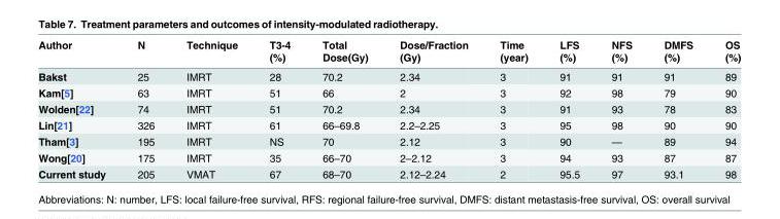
<table><thead><tr><td rowspan="2">Author</td><td rowspan="2">N</td><td rowspan="2">Technique</td><td rowspan="2">T3-4 (%)</td><td rowspan="2">Total Dose(Gy)</td><td rowspan="2">Dose/Fraction (Gy)</td><td rowspan="2">Time (year)</td><td rowspan="2">LFS (%)</td><td rowspan="2">NFS (%)</td><td rowspan="2">DMFS (%)</td><td rowspan="2">OS (%)</td></tr><tr></tr></thead><tbody><tr><td>Bakst</td><td>25</td><td>IMRT</td><td>28</td><td>70.2</td><td>2.34</td><td>3</td><td>91</td><td>91</td><td>91</td><td>89</td></tr><tr><td>Kam[5]</td><td>63</td><td>IMRT</td><td>51</td><td>66</td><td>2</td><td>3</td><td>92</td><td>98</td><td>79</td><td>90</td></tr><tr><td>Wolden[22]</td><td>74</td><td>IMRT</td><td>51</td><td>70.2</td><td>2.34</td><td>3</td><td>91</td><td>93</td><td>78</td><td>83</td></tr><tr><td>Lin[21]</td><td>326</td><td>IMRT</td><td>61</td><td>66–69.8</td><td>2.2–2.25</td><td>3</td><td>95</td><td>98</td><td>90</td><td>90</td></tr><tr><td>Tham[3]</td><td>195</td><td>IMRT</td><td>NS</td><td>70</td><td>2.12</td><td>3</td><td>90</td><td>—</td><td>89</td><td>94</td></tr><tr><td>Wong[20]</td><td>175</td><td>IMRT</td><td>35</td><td>66–70</td><td>2–2.12</td><td>3</td><td>94</td><td>93</td><td>87</td><td>87</td></tr><tr><td>Current study</td><td>205</td><td>VMAT</td><td>67</td><td>68–70</td><td>2.12–2.24</td><td>2</td><td>95.5</td><td>97</td><td>93.1</td><td>98</td></tr></tbody></table>